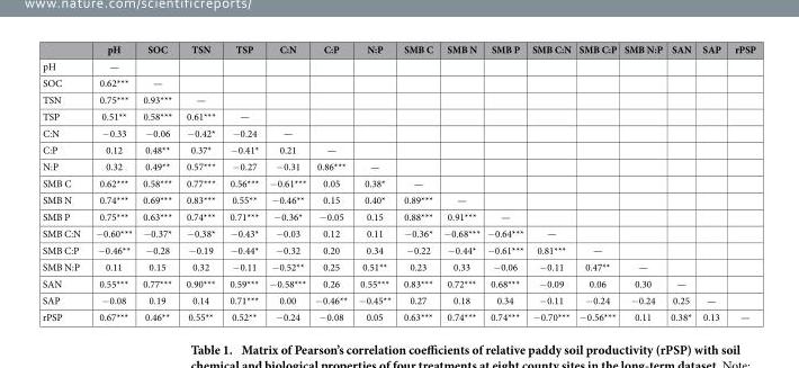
<table><thead><tr><td></td><td>pH</td><td>SOC</td><td>TSN</td><td>TSP</td><td>C:N</td><td>C:P</td><td>N:P</td><td>SMB C</td><td>SMB N</td><td>SMB P</td><td>SMB C:N</td><td>SMB C:P</td><td>SMB N:P</td><td>SAN</td><td>SAP</td><td>rPSP</td></tr></thead><tbody><tr><td>pH</td><td>—</td><td></td><td></td><td></td><td></td><td></td><td></td><td></td><td></td><td></td><td></td><td></td><td></td><td></td><td></td><td></td></tr><tr><td>SOC</td><td>0.62***</td><td>—</td><td></td><td></td><td></td><td></td><td></td><td></td><td></td><td></td><td></td><td></td><td></td><td></td><td></td><td></td></tr><tr><td>TSN</td><td>0.75***</td><td>0.93***</td><td>—</td><td></td><td></td><td></td><td></td><td></td><td></td><td></td><td></td><td></td><td></td><td></td><td></td><td></td></tr><tr><td>TSP</td><td>0.51**</td><td>0.58***</td><td>0.61***</td><td>—</td><td></td><td></td><td></td><td></td><td></td><td></td><td></td><td></td><td></td><td></td><td></td><td></td></tr><tr><td>C:N</td><td>− 0.33</td><td>− 0.06</td><td>− 0.42*</td><td>− 0.24</td><td>—</td><td></td><td></td><td></td><td></td><td></td><td></td><td></td><td></td><td></td><td></td><td></td></tr><tr><td>C:P</td><td>0.12</td><td>0.48**</td><td>0.37*</td><td>− 0.41*</td><td>0.21</td><td>—</td><td></td><td></td><td></td><td></td><td></td><td></td><td></td><td></td><td></td><td></td></tr><tr><td>N:P</td><td>0.32</td><td>0.49**</td><td>0.57***</td><td>− 0.27</td><td>− 0.31</td><td>0.86***</td><td>—</td><td></td><td></td><td></td><td></td><td></td><td></td><td></td><td></td><td></td></tr><tr><td>SMB C</td><td>0.62***</td><td>0.58***</td><td>0.77***</td><td>0.56***</td><td>− 0.61***</td><td>0.05</td><td>0.38*</td><td>—</td><td></td><td></td><td></td><td></td><td></td><td></td><td></td><td></td></tr><tr><td>SMB N</td><td>0.74***</td><td>0.69***</td><td>0.83***</td><td>0.55**</td><td>− 0.46**</td><td>0.15</td><td>0.40*</td><td>0.89***</td><td>—</td><td></td><td></td><td></td><td></td><td></td><td></td><td></td></tr><tr><td>SMB P</td><td>0.75***</td><td>0.63***</td><td>0.74***</td><td>0.71***</td><td>− 0.36*</td><td>− 0.05</td><td>0.15</td><td>0.88***</td><td>0.91***</td><td>—</td><td></td><td></td><td></td><td></td><td></td><td></td></tr><tr><td>SMB C:N</td><td>− 0.60***</td><td>− 0.37*</td><td>− 0.38*</td><td>− 0.43*</td><td>− 0.03</td><td>0.12</td><td>0.11</td><td>− 0.36*</td><td>− 0.68***</td><td>− 0.64***</td><td>—</td><td></td><td></td><td></td><td></td><td></td></tr><tr><td>SMB C:P</td><td>− 0.46**</td><td>− 0.28</td><td>− 0.19</td><td>− 0.44*</td><td>− 0.32</td><td>0.20</td><td>0.34</td><td>− 0.22</td><td>− 0.44*</td><td>− 0.61***</td><td>0.81***</td><td>—</td><td></td><td></td><td></td><td></td></tr><tr><td>SMB N:P</td><td>0.11</td><td>0.15</td><td>0.32</td><td>− 0.11</td><td>− 0.52**</td><td>0.25</td><td>0.51**</td><td>0.23</td><td>0.33</td><td>− 0.06</td><td>− 0.11</td><td>0.47**</td><td>—</td><td></td><td></td><td></td></tr><tr><td>SAN</td><td>0.55***</td><td>0.77***</td><td>0.90***</td><td>0.59***</td><td>− 0.58***</td><td>0.26</td><td>0.55***</td><td>0.83***</td><td>0.72***</td><td>0.68***</td><td>− 0.09</td><td>0.06</td><td>0.30</td><td>—</td><td></td><td></td></tr><tr><td>SAP</td><td>− 0.08</td><td>0.19</td><td>0.14</td><td>0.71***</td><td>0.00</td><td>− 0.46**</td><td>− 0.45**</td><td>0.27</td><td>0.18</td><td>0.34</td><td>− 0.11</td><td>− 0.24</td><td>− 0.24</td><td>0.25</td><td>—</td><td></td></tr><tr><td>rPSP</td><td>0.67***</td><td>0.46**</td><td>0.55**</td><td>0.52**</td><td>− 0.24</td><td>− 0.08</td><td>0.05</td><td>0.63***</td><td>0.74***</td><td>0.74***</td><td>− 0.70***</td><td>− 0.56***</td><td>0.11</td><td>0.38*</td><td>0.13</td><td>—</td></tr></tbody></table>